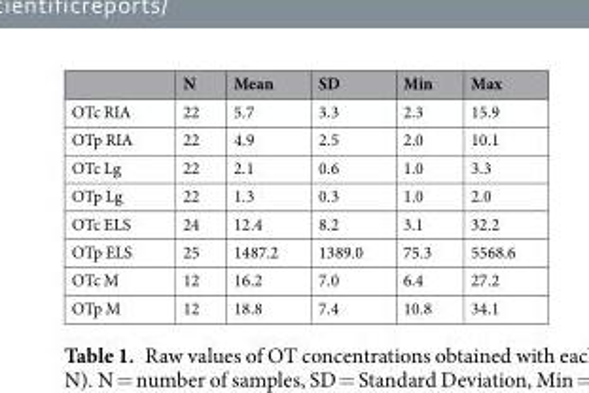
<table><thead><tr><td></td><td>N</td><td>Mean</td><td>SD</td><td>Min</td><td>Max</td></tr></thead><tbody><tr><td>OTc RIA</td><td>22</td><td>5.7</td><td>3.3</td><td>2.3</td><td>15.9</td></tr><tr><td>OTp RIA</td><td>22</td><td>4.9</td><td>2.5</td><td>2.0</td><td>10.1</td></tr><tr><td>OTc Lg</td><td>22</td><td>2.1</td><td>0.6</td><td>1.0</td><td>3.3</td></tr><tr><td>OTp Lg</td><td>22</td><td>1.3</td><td>0.3</td><td>1.0</td><td>2.0</td></tr><tr><td>OTc ELS</td><td>24</td><td>12.4</td><td>8.2</td><td>3.1</td><td>32.2</td></tr><tr><td>OTp ELS</td><td>25</td><td>1487.2</td><td>1389.0</td><td>75.3</td><td>5568.6</td></tr><tr><td>OTc M</td><td>12</td><td>16.2</td><td>7.0</td><td>6.4</td><td>27.2</td></tr><tr><td>OTp M</td><td>12</td><td>18.8</td><td>7.4</td><td>10.8</td><td>34.1</td></tr></tbody></table>